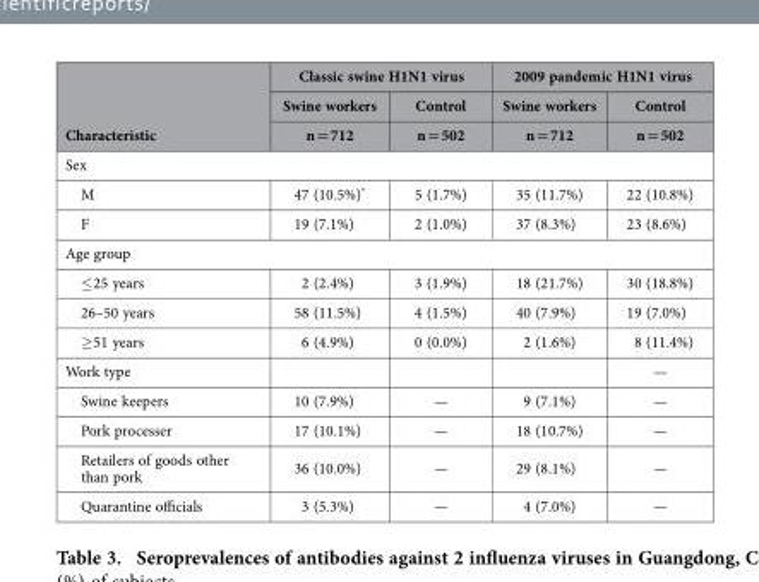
<table><thead><tr><td rowspan="3">Characteristic</td><td colspan="2">Classic swine H1N1 virus</td><td colspan="2">2009 pandemic H1N1 virus</td></tr><tr><td rowspan="2">Swine workers n = 712</td><td rowspan="2">Control n = 502</td><td rowspan="2">Swine workers n = 712</td><td rowspan="2">Control n = 502</td></tr><tr></tr></thead><tbody><tr><td colspan="5">Sex</td></tr><tr><td>M</td><td>47 (10.5%)*</td><td>5 (1.7%)</td><td>35 (11.7%)</td><td>22 (10.8%)</td></tr><tr><td>F</td><td>19 (7.1%)</td><td>2 (1.0%)</td><td>37 (8.3%)</td><td>23 (8.6%)</td></tr><tr><td colspan="5">Age group</td></tr><tr><td>≤ 25 years</td><td>2 (2.4%)</td><td>3 (1.9%)</td><td>18 (21.7%)</td><td>30 (18.8%)</td></tr><tr><td>26–50 years</td><td>58 (11.5%)</td><td>4 (1.5%)</td><td>40 (7.9%)</td><td>19 (7.0%)</td></tr><tr><td>≥ 51 years</td><td>6 (4.9%)</td><td>0 (0.0%)</td><td>2 (1.6%)</td><td>8 (11.4%)</td></tr><tr><td>Work type</td><td></td><td></td><td></td><td>—</td></tr><tr><td>Swine keepers</td><td>10 (7.9%)</td><td>—</td><td>9 (7.1%)</td><td>—</td></tr><tr><td>Pork processer</td><td>17 (10.1%)</td><td>—</td><td>18 (10.7%)</td><td>—</td></tr><tr><td>Retailers of goods other than pork</td><td>36 (10.0%)</td><td>—</td><td>29 (8.1%)</td><td>—</td></tr><tr><td>Quarantine officials</td><td>3 (5.3%)</td><td>—</td><td>4 (7.0%)</td><td>—</td></tr></tbody></table>